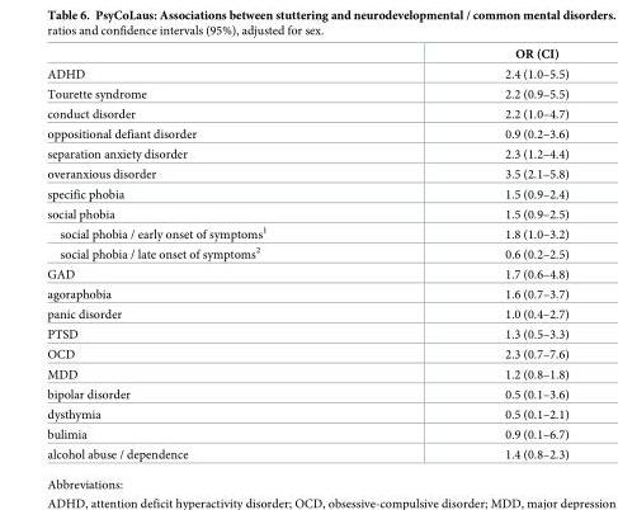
<table><thead><tr><td></td><td>OR (CI)</td></tr></thead><tbody><tr><td>ADHD</td><td>2.4 (1.0–5.5)</td></tr><tr><td>Tourette syndrome</td><td>2.2 (0.9–5.5)</td></tr><tr><td>conduct disorder</td><td>2.2 (1.0–4.7)</td></tr><tr><td>oppositional defiant disorder</td><td>0.9 (0.2–3.6)</td></tr><tr><td>separation anxiety disorder</td><td>2.3 (1.2–4.4)</td></tr><tr><td>overanxious disorder</td><td>3.5 (2.1–5.8)</td></tr><tr><td>specific phobia</td><td>1.5 (0.9–2.4)</td></tr><tr><td>social phobia</td><td>1.5 (0.9–2.5)</td></tr><tr><td>social phobia / early onset of symptoms<sup>1</sup></td><td>1.8 (1.0–3.2)</td></tr><tr><td>social phobia / late onset of symptoms<sup>2</sup></td><td>0.6 (0.2–2.5)</td></tr><tr><td>GAD</td><td>1.7 (0.6–4.8)</td></tr><tr><td>agoraphobia</td><td>1.6 (0.7–3.7)</td></tr><tr><td>panic disorder</td><td>1.0 (0.4–2.7)</td></tr><tr><td>PTSD</td><td>1.3 (0.5–3.3)</td></tr><tr><td>OCD</td><td>2.3 (0.7–7.6)</td></tr><tr><td>MDD</td><td>1.2 (0.8–1.8)</td></tr><tr><td>bipolar disorder</td><td>0.5 (0.1–3.6)</td></tr><tr><td>dysthymia</td><td>0.5 (0.1–2.1)</td></tr><tr><td>bulimia</td><td>0.9 (0.1–6.7)</td></tr><tr><td>alcohol abuse / dependence</td><td>1.4 (0.8–2.3)</td></tr></tbody></table>